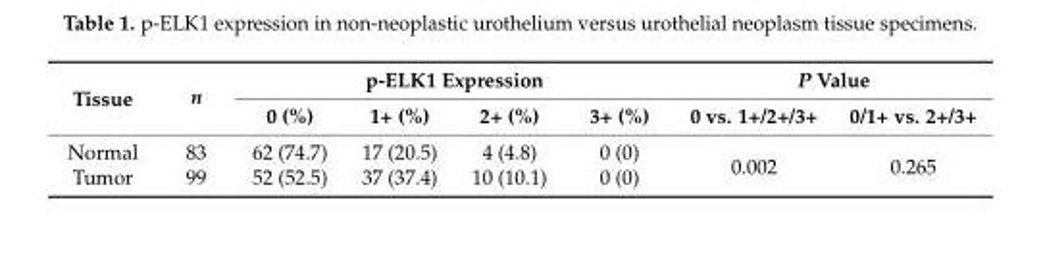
<table><thead><tr><td rowspan="2">Tissue</td><td rowspan="2">n</td><td colspan="4">p-ELK1 Expression</td><td colspan="2">P Value</td></tr><tr><td>0 (%)</td><td>1+ (%)</td><td>2+ (%)</td><td>3+ (%)</td><td>0 vs. 1+/2+/3+</td><td>0/1+ vs. 2+/3+</td></tr></thead><tbody><tr><td>Normal</td><td>83</td><td>62 (74.7)</td><td>17 (20.5)</td><td>4 (4.8)</td><td>0 (0)</td><td rowspan="2">0.002</td><td rowspan="2">0.265</td></tr><tr><td>Tumor</td><td>99</td><td>52 (52.5)</td><td>37 (37.4)</td><td>10 (10.1)</td><td>0 (0)</td></tr></tbody></table>